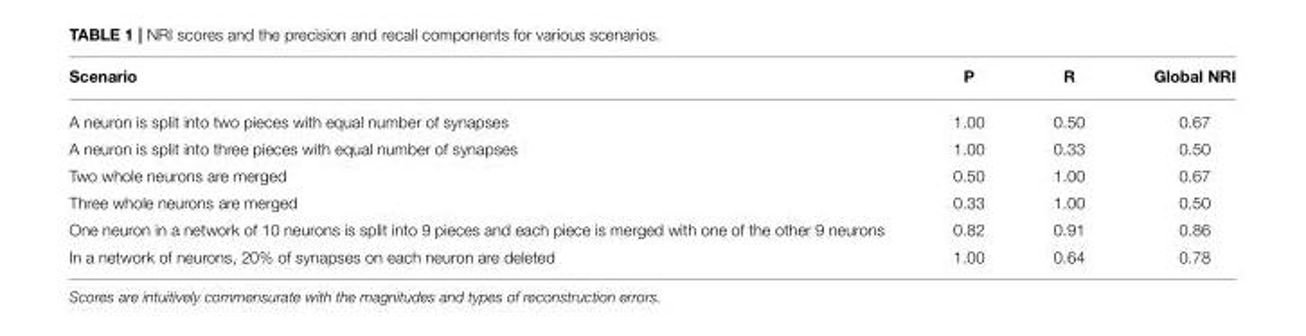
<table><thead><tr><td>Scenario</td><td>P</td><td>R</td><td>Global NRI</td></tr></thead><tbody><tr><td>A neuron is split into two pieces with equal number of synapses</td><td>1.00</td><td>0.50</td><td>0.67</td></tr><tr><td>A neuron is split into three pieces with equal number of synapses</td><td>1.00</td><td>0.33</td><td>0.50</td></tr><tr><td>Two whole neurons are merged</td><td>0.50</td><td>1.00</td><td>0.67</td></tr><tr><td>Three whole neurons are merged</td><td>0.33</td><td>1.00</td><td>0.50</td></tr><tr><td>One neuron in a network of 10 neurons is split into 9 pieces and each piece is merged with one of the other 9 neurons</td><td>0.82</td><td>0.91</td><td>0.86</td></tr><tr><td>In a network of neurons, 20% of synapses on each neuron are deleted</td><td>1.00</td><td>0.64</td><td>0.78</td></tr></tbody></table>